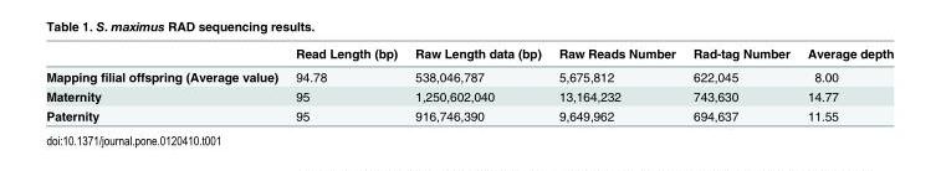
<table><thead><tr><td></td><td>Read Length (bp)</td><td>Raw Length data (bp)</td><td>Raw Reads Number</td><td>Rad-tag Number</td><td>Average depth</td></tr></thead><tbody><tr><td>Mapping filial offspring (Average value)</td><td>94.78</td><td>538,046,787</td><td>5,675,812</td><td>622,045</td><td>8.00</td></tr><tr><td>Maternity</td><td>95</td><td>1,250,602,040</td><td>13,164,232</td><td>743,630</td><td>14.77</td></tr><tr><td>Paternity</td><td>95</td><td>916,746,390</td><td>9,649,962</td><td>694,637</td><td>11.55</td></tr></tbody></table>